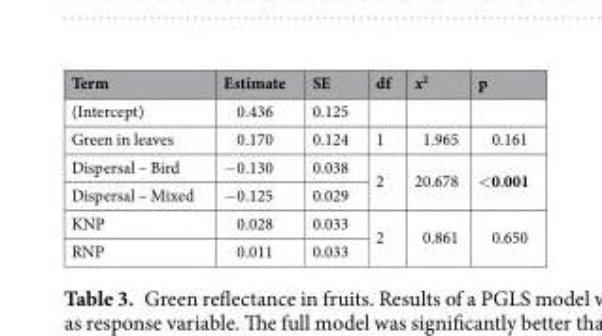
<table><thead><tr><td>Term</td><td>Estimate</td><td>SE</td><td>df</td><td>x<sup>2</sup></td><td>p</td></tr></thead><tbody><tr><td>(Intercept)</td><td>0.436</td><td>0.125</td><td></td><td></td><td></td></tr><tr><td>Green in leaves</td><td>0.170</td><td>0.124</td><td>1</td><td>1.965</td><td>0.161</td></tr><tr><td>Dispersal – Bird</td><td>−0.130</td><td>0.038</td><td rowspan="2">2</td><td rowspan="2">20.678</td><td rowspan="2">&lt;0.001</td></tr><tr><td>Dispersal – Mixed</td><td>−0.125</td><td>0.029</td></tr><tr><td>KNP</td><td>0.028</td><td>0.033</td><td rowspan="2">2</td><td rowspan="2">0.861</td><td rowspan="2">0.650</td></tr><tr><td>RNP</td><td>0.011</td><td>0.033</td></tr></tbody></table>